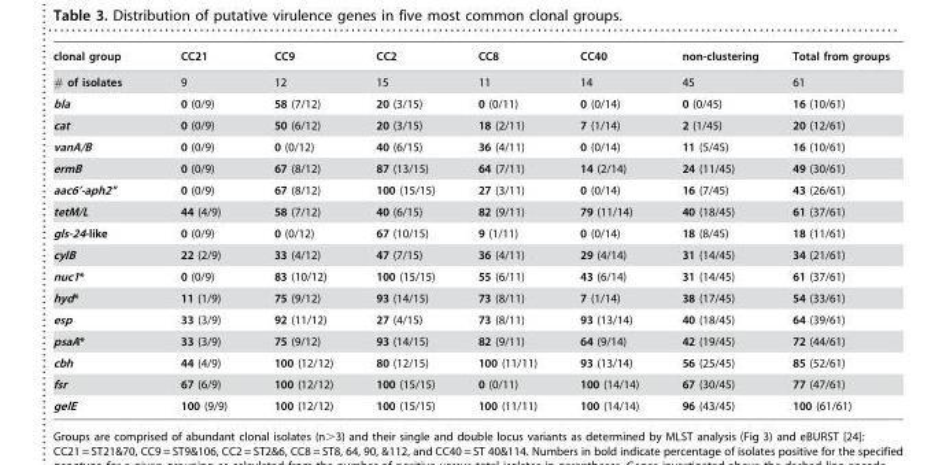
<table><thead><tr><td>clonal group</td><td>CC21</td><td>CC9</td><td>CC2</td><td>CC8</td><td>CC40</td><td>non-clustering</td><td>Total from groups</td></tr></thead><tbody><tr><td># of isolates</td><td>9</td><td>12</td><td>15</td><td>11</td><td>14</td><td>45</td><td>61</td></tr><tr><td>bla</td><td>0 (0/9)</td><td>58 (7/12)</td><td>20 (3/15)</td><td>0 (0/11)</td><td>0 (0/14)</td><td>0 (0/45)</td><td>16 (10/61)</td></tr><tr><td>cat</td><td>0 (0/9)</td><td>50 (6/12)</td><td>20 (3/15)</td><td>18 (2/11)</td><td>7 (1/14)</td><td>2 (1/45)</td><td>20 (12/61)</td></tr><tr><td>vanA/B</td><td>0 (0/9)</td><td>0 (0/12)</td><td>40 (6/15)</td><td>36 (4/11)</td><td>0 (0/14)</td><td>11 (5/45)</td><td>16 (10/61)</td></tr><tr><td>ermB</td><td>0 (0/9)</td><td>67 (8/12)</td><td>87 (13/15)</td><td>64 (7/11)</td><td>14 (2/14)</td><td>24 (11/45)</td><td>49 (30/61)</td></tr><tr><td>aac6’-aph2&quot;</td><td>0 (0/9)</td><td>67 (8/12)</td><td>100 (15/15)</td><td>27 (3/11)</td><td>0 (0/14)</td><td>16 (7/45)</td><td>43 (26/61)</td></tr><tr><td>tetM/L</td><td>44 (4/9)</td><td>58 (7/12)</td><td>40 (6/15)</td><td>82 (9/11)</td><td>79 (11/14)</td><td>40 (18/45)</td><td>61 (37/61)</td></tr><tr><td>gls-24-like</td><td>0 (0/9)</td><td>0 (0/12)</td><td>67 (10/15)</td><td>9 (1/11)</td><td>0 (0/14)</td><td>18 (8/45)</td><td>18 (11/61)</td></tr><tr><td>cylB</td><td>22 (2/9)</td><td>33 (4/12)</td><td>47 (7/15)</td><td>36 (4/11)</td><td>29 (4/14)</td><td>31 (14/45)</td><td>34 (21/61)</td></tr><tr><td>nuc1*</td><td>0 (0/9)</td><td>83 (10/12)</td><td>100 (15/15)</td><td>55 (6/11)</td><td>43 (6/14)</td><td>31 (14/45)</td><td>61 (37/61)</td></tr><tr><td>hyd*</td><td>11 (1/9)</td><td>75 (9/12)</td><td>93 (14/15)</td><td>73 (8/11)</td><td>7 (1/14)</td><td>38 (17/45)</td><td>54 (33/61)</td></tr><tr><td>esp</td><td>33 (3/9)</td><td>92 (11/12)</td><td>27 (4/15)</td><td>73 (8/11)</td><td>93 (13/14)</td><td>40 (18/45)</td><td>64 (39/61)</td></tr><tr><td>psaA*</td><td>33 (3/9)</td><td>75 (9/12)</td><td>93 (14/15)</td><td>82 (9/11)</td><td>64 (9/14)</td><td>42 (19/45)</td><td>72 (44/61)</td></tr><tr><td>cbh</td><td>44 (4/9)</td><td>100 (12/12)</td><td>80 (12/15)</td><td>100 (11/11)</td><td>93 (13/14)</td><td>56 (25/45)</td><td>85 (52/61)</td></tr><tr><td>fsr</td><td>67 (6/9)</td><td>100 (12/12)</td><td>100 (15/15)</td><td>0 (0/11)</td><td>100 (14/14)</td><td>67 (30/45)</td><td>77 (47/61)</td></tr><tr><td>gelE</td><td>100 (9/9)</td><td>100 (12/12)</td><td>100 (15/15)</td><td>100 (11/11)</td><td>100 (14/14)</td><td>96 (43/45)</td><td>100 (61/61)</td></tr></tbody></table>